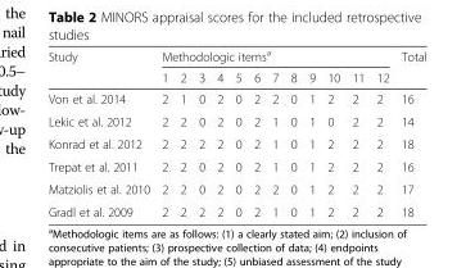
<table><thead><tr><td rowspan="2">Study</td><td colspan="12">Methodologic items<sup>a</sup></td><td rowspan="2">Total</td></tr><tr><td>1</td><td>2</td><td>3</td><td>4</td><td>5</td><td>6</td><td>7</td><td>8</td><td>9</td><td>10</td><td>11</td><td>12</td></tr></thead><tbody><tr><td>Von et al. 2014</td><td>2</td><td>1</td><td>0</td><td>2</td><td>0</td><td>2</td><td>2</td><td>0</td><td>1</td><td>2</td><td>2</td><td>2</td><td>16</td></tr><tr><td>Lekic et al. 2012</td><td>2</td><td>2</td><td>0</td><td>2</td><td>0</td><td>2</td><td>1</td><td>0</td><td>1</td><td>0</td><td>2</td><td>2</td><td>14</td></tr><tr><td>Konrad et al. 2012</td><td>2</td><td>2</td><td>2</td><td>2</td><td>0</td><td>2</td><td>1</td><td>0</td><td>1</td><td>2</td><td>2</td><td>2</td><td>18</td></tr><tr><td>Trepat et al. 2011</td><td>2</td><td>2</td><td>0</td><td>2</td><td>0</td><td>2</td><td>1</td><td>0</td><td>1</td><td>2</td><td>2</td><td>2</td><td>16</td></tr><tr><td>Matziolis et al. 2010</td><td>2</td><td>2</td><td>0</td><td>2</td><td>0</td><td>2</td><td>2</td><td>0</td><td>1</td><td>2</td><td>2</td><td>2</td><td>17</td></tr><tr><td>Gradl et al. 2009</td><td>2</td><td>2</td><td>2</td><td>2</td><td>0</td><td>2</td><td>1</td><td>0</td><td>1</td><td>2</td><td>2</td><td>2</td><td>18</td></tr></tbody></table>